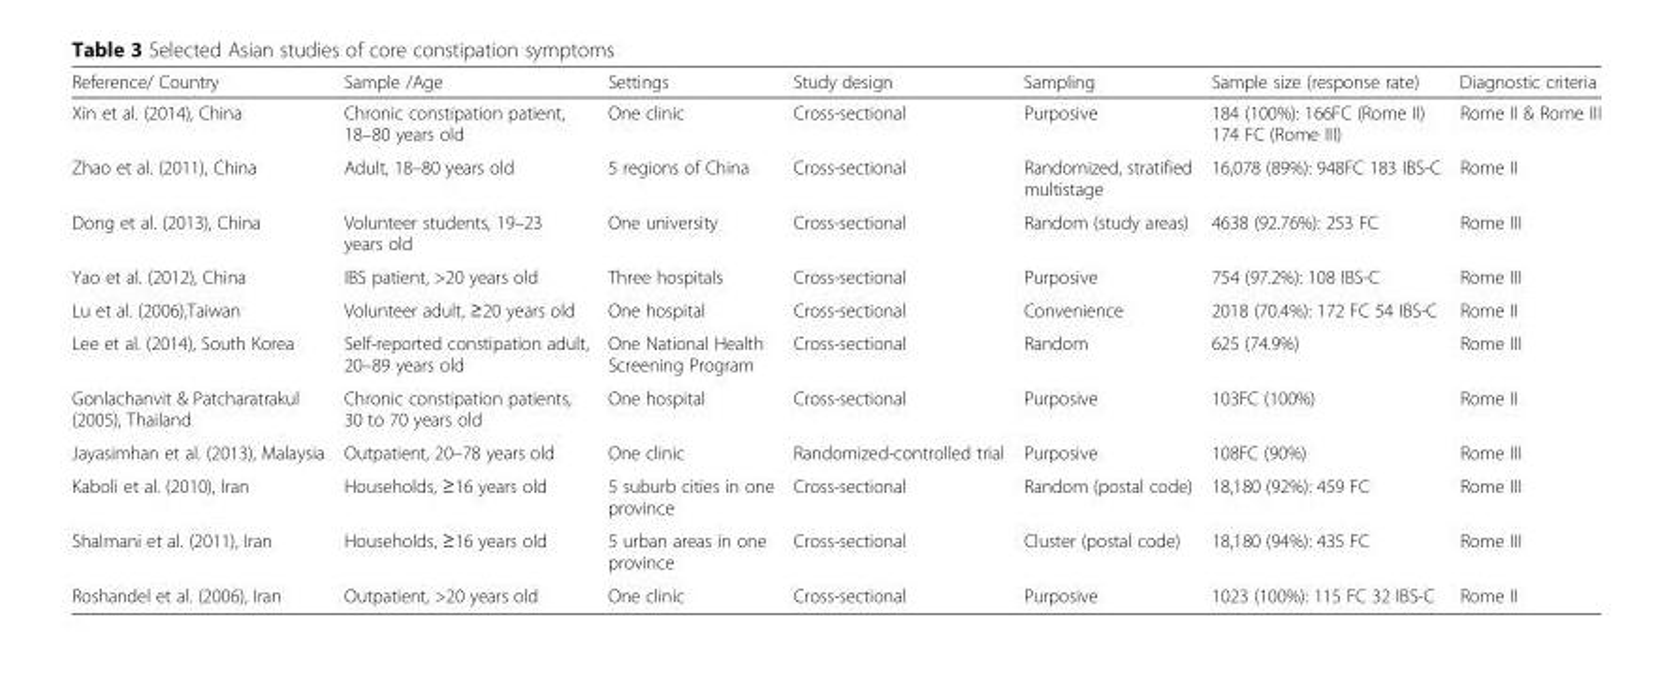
<table><thead><tr><td>Reference/ Country</td><td>Sample /Age</td><td>Settings</td><td>Study design</td><td>Sampling</td><td>Sample size (response rate)</td><td>Diagnostic criteria</td></tr></thead><tbody><tr><td>Xin et al. (2014), China</td><td>Chronic constipation patient, 18–80 years old</td><td>One clinic</td><td>Cross-sectional</td><td>Purposive</td><td>184 (100%): 166FC (Rome II) 174 FC (Rome III)</td><td>Rome II &amp; Rome III</td></tr><tr><td>Zhao et al. (2011), China</td><td>Adult, 18–80 years old</td><td>5 regions of China</td><td>Cross-sectional</td><td>Randomized, stratified multistage</td><td>16,078 (89%): 948FC 183 IBS-C</td><td>Rome II</td></tr><tr><td>Dong et al. (2013), China</td><td>Volunteer students, 19–23 years old</td><td>One university</td><td>Cross-sectional</td><td>Random (study areas)</td><td>4638 (92.76%): 253 FC</td><td>Rome III</td></tr><tr><td>Yao et al. (2012), China</td><td>IBS patient, &gt;20 years old</td><td>Three hospitals</td><td>Cross-sectional</td><td>Purposive</td><td>754 (97.2%): 108 IBS-C</td><td>Rome III</td></tr><tr><td>Lu et al. (2006),Taiwan</td><td>Volunteer adult, ≥20 years old</td><td>One hospital</td><td>Cross-sectional</td><td>Convenience</td><td>2018 (70.4%): 172 FC 54 IBS-C</td><td>Rome II</td></tr><tr><td>Lee et al. (2014), South Korea</td><td>Self-reported constipation adult, 20–89 years old</td><td>One National Health Screening Program</td><td>Cross-sectional</td><td>Random</td><td>625 (74.9%)</td><td>Rome III</td></tr><tr><td>Gonlachanvit &amp; Patcharatrakul (2005), Thailand</td><td>Chronic constipation patients, 30 to 70 years old</td><td>One hospital</td><td>Cross-sectional</td><td>Purposive</td><td>103FC (100%)</td><td>Rome II</td></tr><tr><td>Jayasimhan et al. (2013), Malaysia</td><td>Outpatient, 20–78 years old</td><td>One clinic</td><td>Randomized-controlled trial</td><td>Purposive</td><td>108FC (90%)</td><td>Rome III</td></tr><tr><td>Kaboli et al. (2010), Iran</td><td>Households, ≥16 years old</td><td>5 suburb cities in one province</td><td>Cross-sectional</td><td>Random (postal code)</td><td>18,180 (92%): 459 FC</td><td>Rome III</td></tr><tr><td>Shalmani et al. (2011), Iran</td><td>Households, ≥16 years old</td><td>5 urban areas in one province</td><td>Cross-sectional</td><td>Cluster (postal code)</td><td>18,180 (94%): 435 FC</td><td>Rome III</td></tr><tr><td>Roshandel et al. (2006), Iran</td><td>Outpatient, &gt;20 years old</td><td>One clinic</td><td>Cross-sectional</td><td>Purposive</td><td>1023 (100%): 115 FC 32 IBS-C</td><td>Rome II</td></tr></tbody></table>